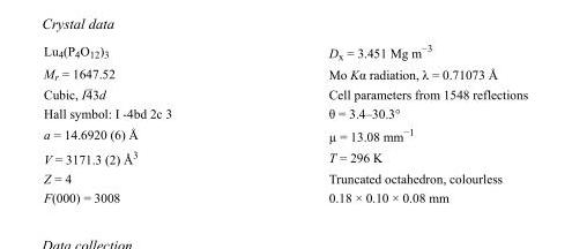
<table><tbody><tr><td>Lu<sub>4</sub>(P<sub>4</sub>O<sub>12</sub>)<sub>3</sub></td><td>D<sub>x</sub> = 3.451 Mg m<sup>−3</sup></td></tr><tr><td>M<sub>r</sub> = 1647.52</td><td>Mo Kα radiation, λ = 0.71073 Å</td></tr><tr><td>Cubic, I43d</td><td>Cell parameters from 1548 reflections</td></tr><tr><td>Hall symbol: I -4bd 2c 3</td><td>θ = 3.4–30.3°</td></tr><tr><td>a = 14.6920 (6) Å</td><td>µ = 13.08 mm<sup>−1</sup></td></tr><tr><td>V = 3171.3 (2) Å<sup>3</sup></td><td>T = 296 K</td></tr><tr><td>Z = 4</td><td>Truncated octahedron, colourless</td></tr><tr><td>F(000) = 3008</td><td>0.18 × 0.10 × 0.08 mm</td></tr></tbody></table>